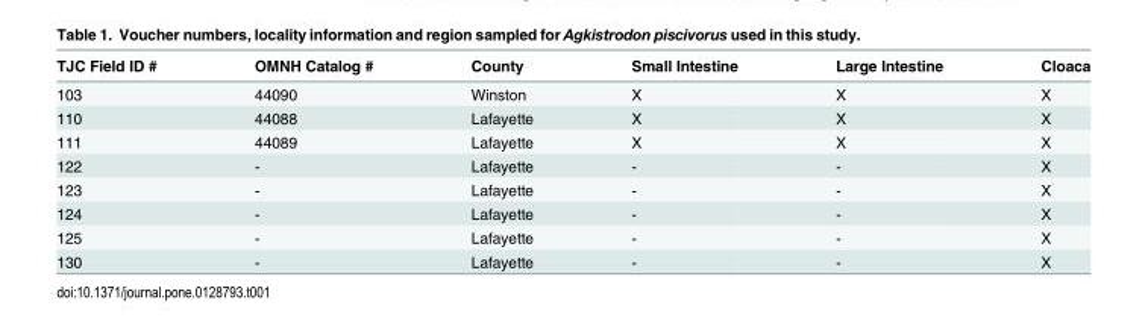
<table><thead><tr><td>TJC Field ID #</td><td>OMNH Catalog #</td><td>County</td><td>Small Intestine</td><td>Large Intestine</td><td>Cloaca</td></tr></thead><tbody><tr><td>103</td><td>44090</td><td>Winston</td><td>X</td><td>X</td><td>X</td></tr><tr><td>110</td><td>44088</td><td>Lafayette</td><td>X</td><td>X</td><td>X</td></tr><tr><td>111</td><td>44089</td><td>Lafayette</td><td>X</td><td>X</td><td>X</td></tr><tr><td>122</td><td>-</td><td>Lafayette</td><td>-</td><td>-</td><td>X</td></tr><tr><td>123</td><td>-</td><td>Lafayette</td><td>-</td><td>-</td><td>X</td></tr><tr><td>124</td><td>-</td><td>Lafayette</td><td>-</td><td>-</td><td>X</td></tr><tr><td>125</td><td>-</td><td>Lafayette</td><td>-</td><td>-</td><td>X</td></tr><tr><td>130</td><td>-</td><td>Lafayette</td><td>-</td><td>-</td><td>X</td></tr></tbody></table>